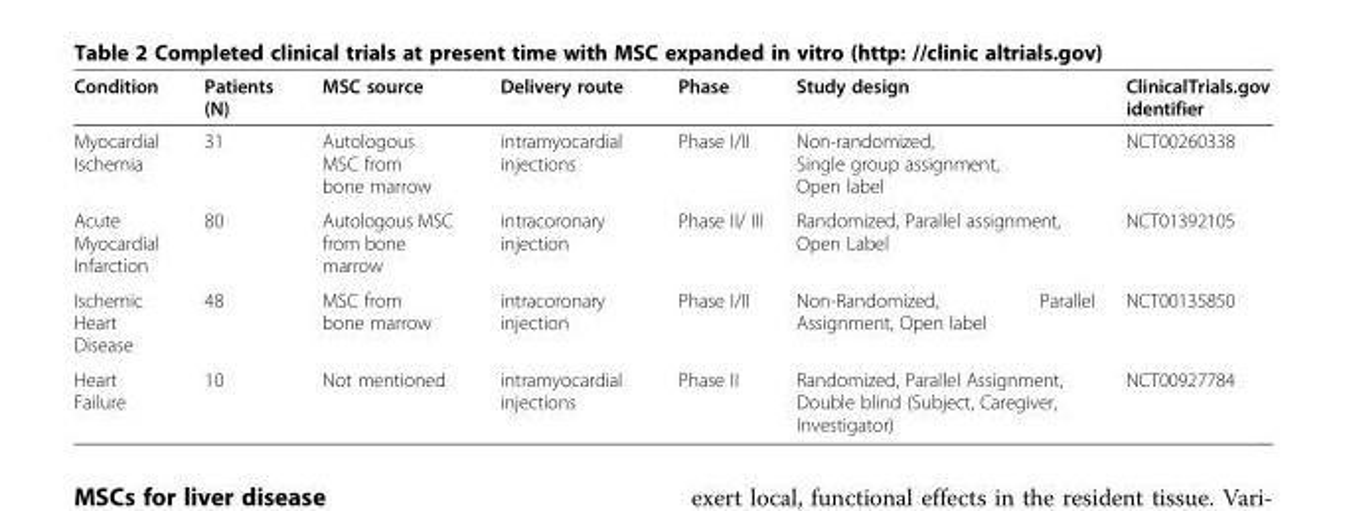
<table><thead><tr><td>Condition</td><td>Patients (N)</td><td>MSC source</td><td>Delivery route</td><td>Phase</td><td>Study design</td><td>ClinicalTrials.gov identifier</td></tr></thead><tbody><tr><td>Myocardial Ischemia</td><td>31</td><td>Autologous MSC from bone marrow</td><td>intramyocardial injections</td><td>Phase I/II</td><td>Non-randomized, Single group assignment, Open label</td><td>NCT00260338</td></tr><tr><td>Acute Myocardial Infarction</td><td>80</td><td>Autologous MSC from bone marrow</td><td>intracoronary injection</td><td>Phase II/ III</td><td>Randomized, Parallel assignment, Open Label</td><td>NCT01392105</td></tr><tr><td>Ischemic Heart Disease</td><td>48</td><td>MSC from bone marrow</td><td>intracoronary injection</td><td>Phase I/II</td><td>Non-Randomized, Parallel Assignment, Open label</td><td>NCT00135850</td></tr><tr><td>Heart Failure</td><td>10</td><td>Not mentioned</td><td>intramyocardial injections</td><td>Phase II</td><td>Randomized, Parallel Assignment, Double blind (Subject, Caregiver, Investigator)</td><td>NCT00927784</td></tr></tbody></table>